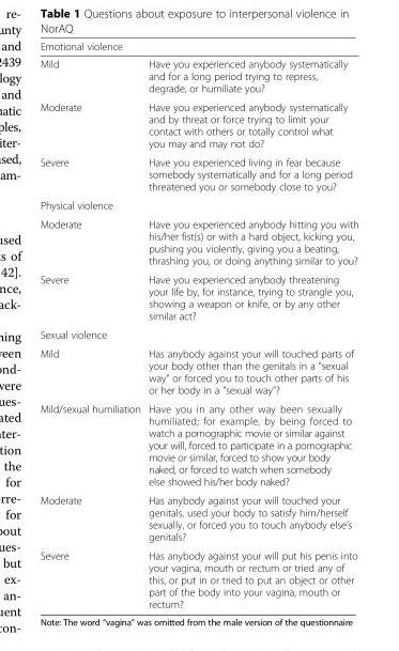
<table><thead><tr><td colspan="2">Emotional violence</td></tr><tr><td>Mild</td><td>Have you experienced anybody systematically and for a long period trying to repress, degrade, or humiliate you?</td></tr></thead><tbody><tr><td>Moderate</td><td>Have you experienced anybody systematically and by threat or force trying to limit your contact with others or totally control what you may and may not do?</td></tr><tr><td>Severe</td><td>Have you experienced living in fear because somebody systematically and for a long period threatened you or somebody close to you?</td></tr><tr><td colspan="2">Physical violence</td></tr><tr><td>Moderate</td><td>Have you experienced anybody hitting you with his/her fist(s) or with a hard object, kicking you, pushing you violently, giving you a beating, thrashing you, or doing anything similar to you?</td></tr><tr><td>Severe</td><td>Have you experienced anybody threatening your life by, for instance, trying to strangle you, showing a weapon or knife, or by any other similar act?</td></tr><tr><td colspan="2">Sexual violence</td></tr><tr><td>Mild</td><td>Has anybody against your will touched parts of your body other than the genitals in a &quot;sexual way&quot; or forced you to touch other parts of his or her body in a &quot;sexual way&quot;?</td></tr><tr><td>Mild/sexual humiliation</td><td>Have you in any other way been sexually humiliated; for example, by being forced to watch a pornographic movie or similar against your will, forced to participate in a pornographic movie or similar, forced to show your body naked, or forced to watch when somebody else showed his/her body naked?</td></tr><tr><td>Moderate</td><td>Has anybody against your will touched your genitals, used your body to satisfy him/herself sexually, or forced you to touch anybody else’s genitals?</td></tr><tr><td>Severe</td><td>Has anybody against your will put his penis into your vagina, mouth or rectum or tried any of this, or put in or tried to put an object or other part of the body into your vagina, mouth or rectum?</td></tr></tbody></table>